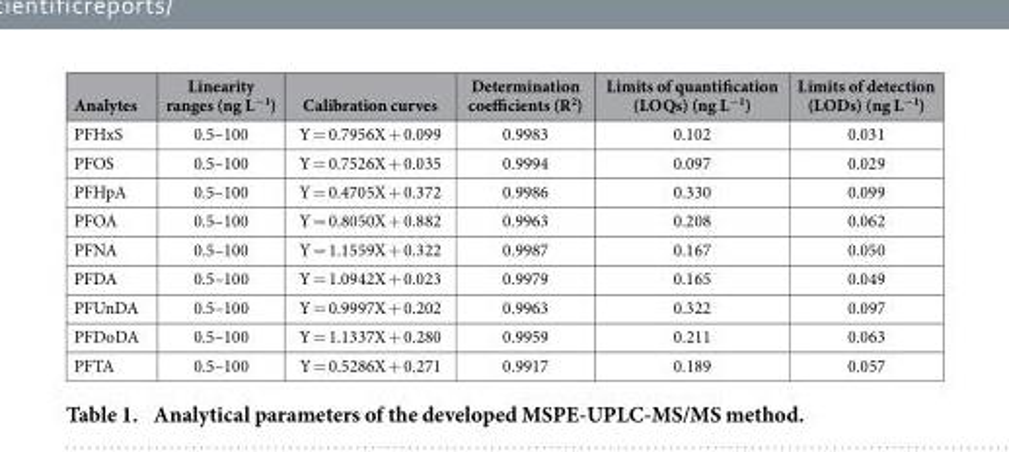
<table><thead><tr><td>Analytes</td><td>Linearity ranges (ng L<sup>−1</sup>)</td><td>Calibration curves</td><td>Determination coefficients (R<sup>2</sup>)</td><td>Limits of quantification (LOQs) (ng L<sup>−1</sup>)</td><td>Limits of detection (LODs) (ng L<sup>−1</sup>)</td></tr></thead><tbody><tr><td>PFHxS</td><td>0.5–100</td><td>Y = 0.7956X + 0.099</td><td>0.9983</td><td>0.102</td><td>0.031</td></tr><tr><td>PFOS</td><td>0.5–100</td><td>Y = 0.7526X + 0.035</td><td>0.9994</td><td>0.097</td><td>0.029</td></tr><tr><td>PFHpA</td><td>0.5–100</td><td>Y = 0.4705X + 0.372</td><td>0.9986</td><td>0.330</td><td>0.099</td></tr><tr><td>PFOA</td><td>0.5–100</td><td>Y = 0.8050X + 0.882</td><td>0.9963</td><td>0.208</td><td>0.062</td></tr><tr><td>PFNA</td><td>0.5–100</td><td>Y = 1.1559X + 0.322</td><td>0.9987</td><td>0.167</td><td>0.050</td></tr><tr><td>PFDA</td><td>0.5–100</td><td>Y = 1.0942X + 0.023</td><td>0.9979</td><td>0.165</td><td>0.049</td></tr><tr><td>PFUnDA</td><td>0.5–100</td><td>Y = 0.9997X + 0.202</td><td>0.9963</td><td>0.322</td><td>0.097</td></tr><tr><td>PFDoDA</td><td>0.5–100</td><td>Y = 1.1337X + 0.280</td><td>0.9959</td><td>0.211</td><td>0.063</td></tr><tr><td>PFTA</td><td>0.5–100</td><td>Y = 0.5286X + 0.271</td><td>0.9917</td><td>0.189</td><td>0.057</td></tr></tbody></table>